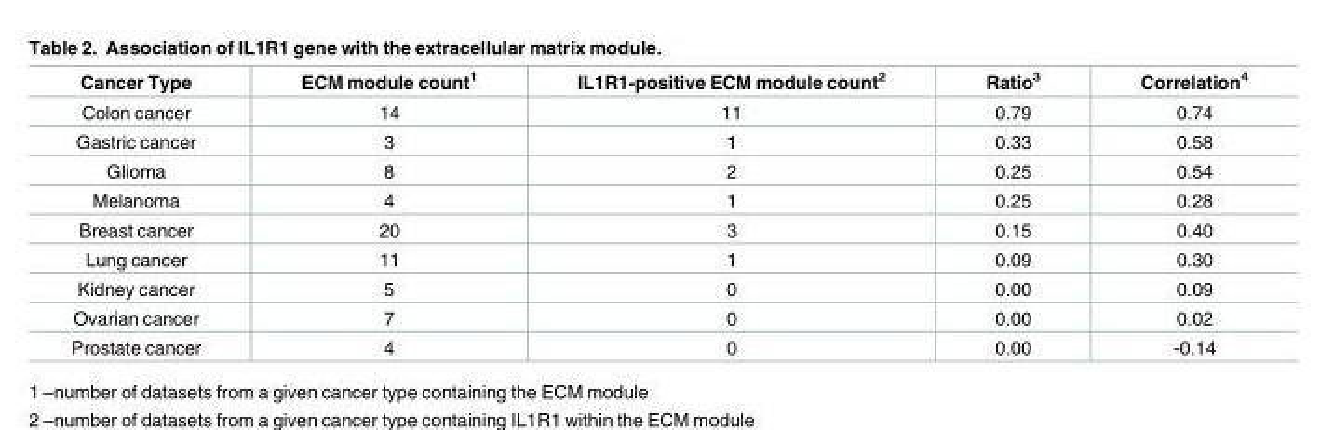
<table><thead><tr><td>Cancer Type</td><td>ECM module count<sup>1</sup></td><td>IL1R1-positive ECM module count<sup>2</sup></td><td>Ratio<sup>3</sup></td><td>Correlation<sup>4</sup></td></tr></thead><tbody><tr><td>Colon cancer</td><td>14</td><td>11</td><td>0.79</td><td>0.74</td></tr><tr><td>Gastric cancer</td><td>3</td><td>1</td><td>0.33</td><td>0.58</td></tr><tr><td>Glioma</td><td>8</td><td>2</td><td>0.25</td><td>0.54</td></tr><tr><td>Melanoma</td><td>4</td><td>1</td><td>0.25</td><td>0.28</td></tr><tr><td>Breast cancer</td><td>20</td><td>3</td><td>0.15</td><td>0.40</td></tr><tr><td>Lung cancer</td><td>11</td><td>1</td><td>0.09</td><td>0.30</td></tr><tr><td>Kidney cancer</td><td>5</td><td>0</td><td>0.00</td><td>0.09</td></tr><tr><td>Ovarian cancer</td><td>7</td><td>0</td><td>0.00</td><td>0.02</td></tr><tr><td>Prostate cancer</td><td>4</td><td>0</td><td>0.00</td><td>-0.14</td></tr></tbody></table>